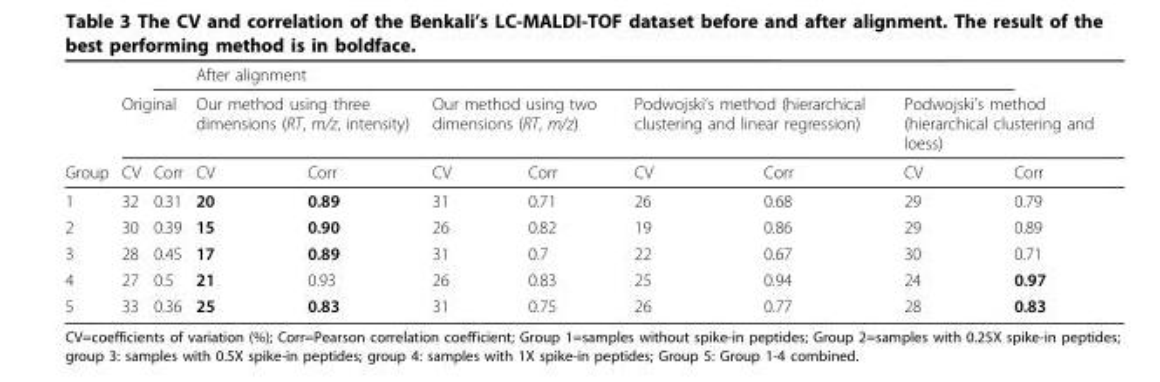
<table><thead><tr><td rowspan="3">Group</td><td></td><td></td><td colspan="8">After alignment</td></tr><tr><td colspan="2">Original</td><td colspan="2">Our method using three dimensions (RT, m/z, intensity)</td><td colspan="2">Our method using two dimensions (RT, m/z)</td><td colspan="2">Podwojski’s method (hierarchical clustering and linear regression)</td><td colspan="2">Podwojski’s method (hierarchical clustering and loess)</td></tr><tr><td>CV</td><td>Corr</td><td>CV</td><td>Corr</td><td>CV</td><td>Corr</td><td>CV</td><td>Corr</td><td>CV</td><td>Corr</td></tr></thead><tbody><tr><td>1</td><td>32</td><td>0.31</td><td>20</td><td>0.89</td><td>31</td><td>0.71</td><td>26</td><td>0.68</td><td>29</td><td>0.79</td></tr><tr><td>2</td><td>30</td><td>0.39</td><td>15</td><td>0.90</td><td>26</td><td>0.82</td><td>19</td><td>0.86</td><td>29</td><td>0.89</td></tr><tr><td>3</td><td>28</td><td>0.45</td><td>17</td><td>0.89</td><td>31</td><td>0.7</td><td>22</td><td>0.67</td><td>30</td><td>0.71</td></tr><tr><td>4</td><td>27</td><td>0.5</td><td>21</td><td>0.93</td><td>26</td><td>0.83</td><td>25</td><td>0.94</td><td>24</td><td>0.97</td></tr><tr><td>5</td><td>33</td><td>0.36</td><td>25</td><td>0.83</td><td>31</td><td>0.75</td><td>26</td><td>0.77</td><td>28</td><td>0.83</td></tr></tbody></table>